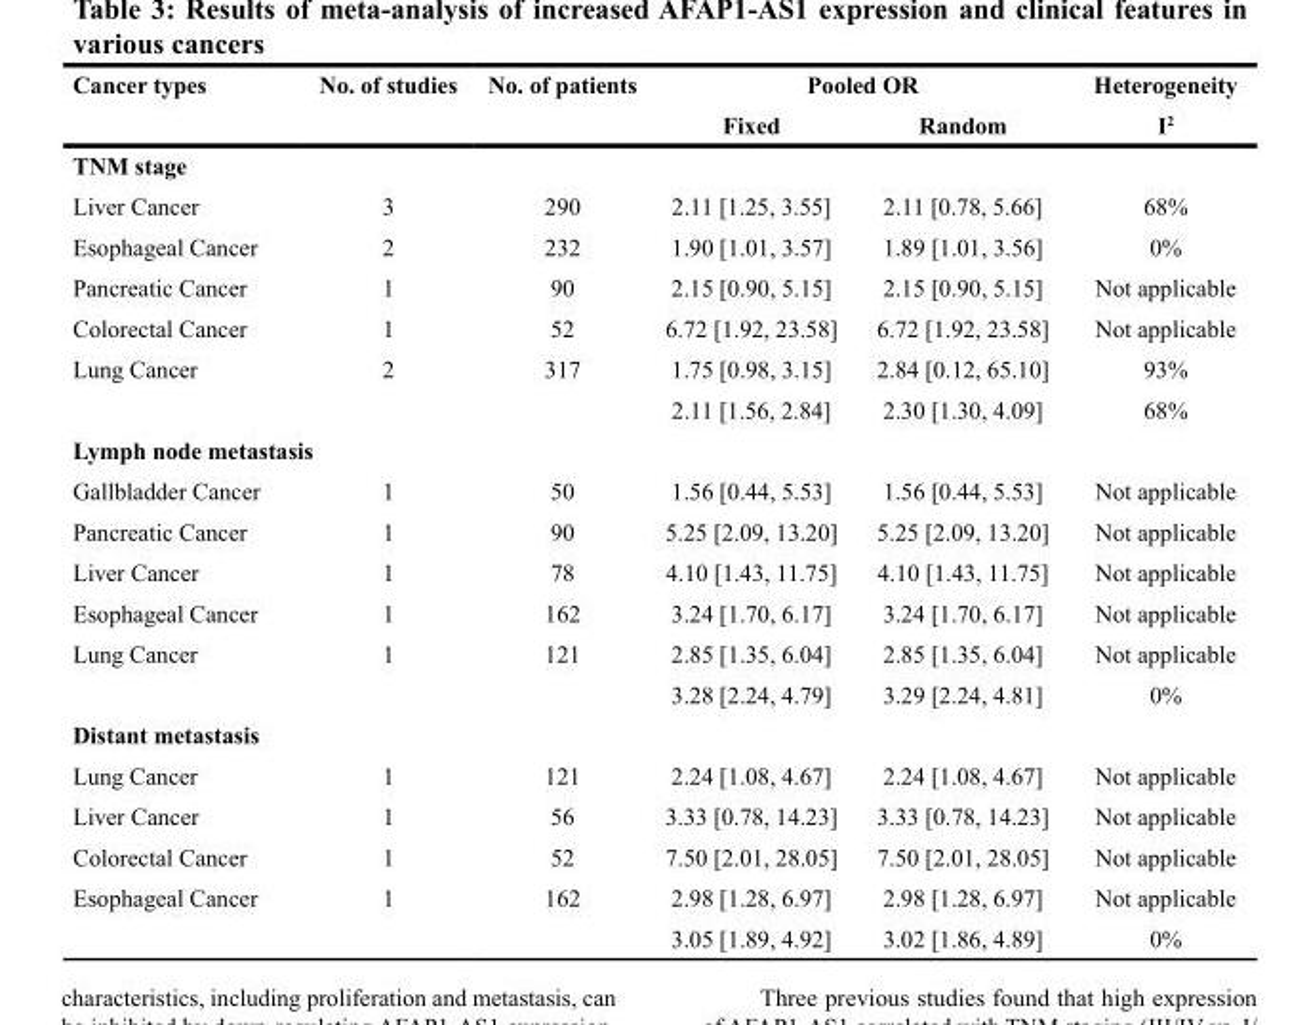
<table><thead><tr><td rowspan="2">Cancer types</td><td rowspan="2">No. of studies</td><td rowspan="2">No. of patients</td><td colspan="2">Pooled OR</td><td rowspan="2">Heterogeneity I<sup>2</sup></td></tr><tr><td>Fixed</td><td>Random</td></tr></thead><tbody><tr><td colspan="6">TNM stage</td></tr><tr><td>Liver Cancer</td><td>3</td><td>290</td><td>2.11 [1.25, 3.55]</td><td>2.11 [0.78, 5.66]</td><td>68%</td></tr><tr><td>Esophageal Cancer</td><td>2</td><td>232</td><td>1.90 [1.01, 3.57]</td><td>1.89 [1.01, 3.56]</td><td>0%</td></tr><tr><td>Pancreatic Cancer</td><td>1</td><td>90</td><td>2.15 [0.90, 5.15]</td><td>2.15 [0.90, 5.15]</td><td>Not applicable</td></tr><tr><td>Colorectal Cancer</td><td>1</td><td>52</td><td>6.72 [1.92, 23.58]</td><td>6.72 [1.92, 23.58]</td><td>Not applicable</td></tr><tr><td rowspan="2">Lung Cancer</td><td>2</td><td>317</td><td>1.75 [0.98, 3.15]</td><td>2.84 [0.12, 65.10]</td><td>93%</td></tr><tr><td></td><td></td><td>2.11 [1.56, 2.84]</td><td>2.30 [1.30, 4.09]</td><td>68%</td></tr><tr><td colspan="6">Lymph node metastasis</td></tr><tr><td>Gallbladder Cancer</td><td>1</td><td>50</td><td>1.56 [0.44, 5.53]</td><td>1.56 [0.44, 5.53]</td><td>Not applicable</td></tr><tr><td>Pancreatic Cancer</td><td>1</td><td>90</td><td>5.25 [2.09, 13.20]</td><td>5.25 [2.09, 13.20]</td><td>Not applicable</td></tr><tr><td>Liver Cancer</td><td>1</td><td>78</td><td>4.10 [1.43, 11.75]</td><td>4.10 [1.43, 11.75]</td><td>Not applicable</td></tr><tr><td>Esophageal Cancer</td><td>1</td><td>162</td><td>3.24 [1.70, 6.17]</td><td>3.24 [1.70, 6.17]</td><td>Not applicable</td></tr><tr><td rowspan="2">Lung Cancer</td><td>1</td><td>121</td><td>2.85 [1.35, 6.04]</td><td>2.85 [1.35, 6.04]</td><td>Not applicable</td></tr><tr><td></td><td></td><td>3.28 [2.24, 4.79]</td><td>3.29 [2.24, 4.81]</td><td>0%</td></tr><tr><td colspan="6">Distant metastasis</td></tr><tr><td>Lung Cancer</td><td>1</td><td>121</td><td>2.24 [1.08, 4.67]</td><td>2.24 [1.08, 4.67]</td><td>Not applicable</td></tr><tr><td>Liver Cancer</td><td>1</td><td>56</td><td>3.33 [0.78, 14.23]</td><td>3.33 [0.78, 14.23]</td><td>Not applicable</td></tr><tr><td>Colorectal Cancer</td><td>1</td><td>52</td><td>7.50 [2.01, 28.05]</td><td>7.50 [2.01, 28.05]</td><td>Not applicable</td></tr><tr><td rowspan="2">Esophageal Cancer</td><td>1</td><td>162</td><td>2.98 [1.28, 6.97]</td><td>2.98 [1.28, 6.97]</td><td>Not applicable</td></tr><tr><td></td><td></td><td>3.05 [1.89, 4.92]</td><td>3.02 [1.86, 4.89]</td><td>0%</td></tr></tbody></table>